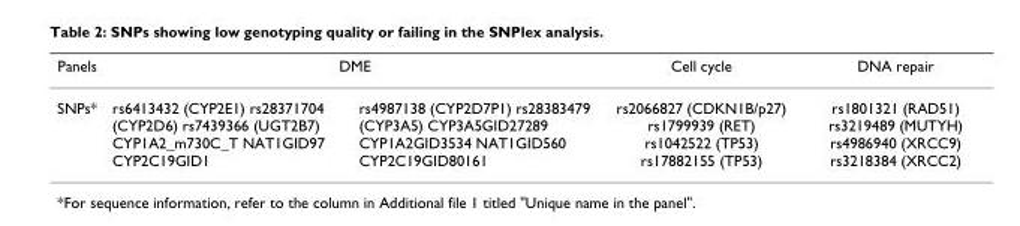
<table><thead><tr><td rowspan="2">Panels SNPs*</td><td colspan="2">DME</td><td rowspan="2">Cell cycle rs2066827 (CDKN1B/p27) rs1799939 (RET) rs1042522 (TP53) rs17882155 (TP53)</td><td rowspan="2">DNA repair rs1801321 (RAD51) rs3219489 (MUTYH) rs4986940 (XRCC9) rs3218384 (XRCC2)</td></tr><tr><td>rs6413432 (CYP2E1) rs28371704 (CYP2D6) rs7439366 (UGT2B7) CYP1A2_m730C_T NAT1GID97 CYP2C19GID1</td><td>rs4987138 (CYP2D7P1) rs28383479 (CYP3A5) CYP3A5GID27289 CYP1A2GID3534 NAT1GID560 CYP2C19GID80161</td></tr></thead><tbody></tbody></table>